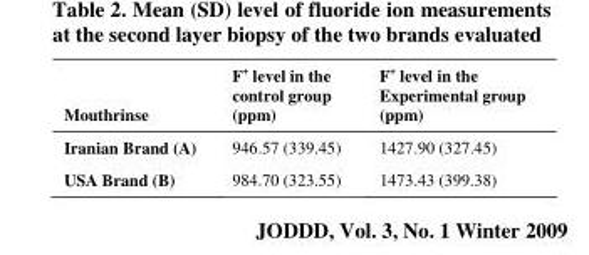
<table><tbody><tr><td>Mouthrinse</td><td>F<sup>+</sup> level in the control group (ppm)</td><td>F<sup>+</sup> level in the Experimental group (ppm)</td></tr><tr><td>Iranian Brand (A)</td><td>946.57 (339.45)</td><td>1427.90 (327.45)</td></tr><tr><td>USA Brand (B)</td><td>984.70 (323.55)</td><td>1473.43 (399.38)</td></tr></tbody></table>